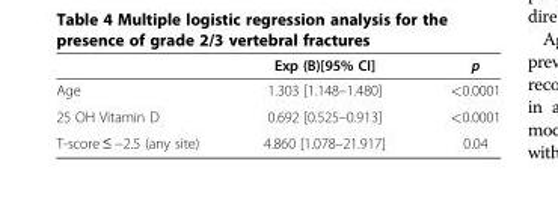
<table><thead><tr><td></td><td>Exp (B)[95% CI]</td><td>p</td></tr></thead><tbody><tr><td>Age</td><td>1.303 [1.148–1.480]</td><td>&lt;0.0001</td></tr><tr><td>25 OH Vitamin D</td><td>0.692 [0.525–0.913]</td><td>&lt;0.0001</td></tr><tr><td>T-score ≤ −2.5 (any site)</td><td>4.860 [1.078–21.917]</td><td>0.04</td></tr></tbody></table>